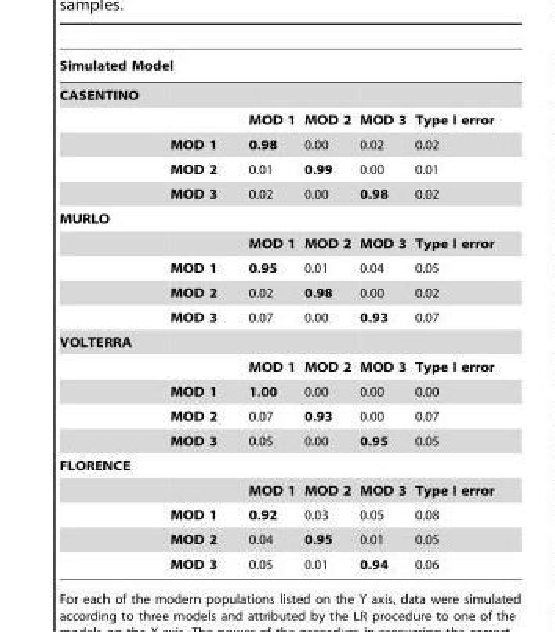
<table><thead><tr><td colspan="6">Simulated Model</td></tr><tr><td>CASENTINO</td><td></td><td></td><td></td><td></td><td></td></tr></thead><tbody><tr><td></td><td></td><td>MOD 1</td><td>MOD 2</td><td>MOD 3</td><td>Type I error</td></tr><tr><td></td><td>MOD 1</td><td>0.98</td><td>0.00</td><td>0.02</td><td>0.02</td></tr><tr><td></td><td>MOD 2</td><td>0.01</td><td>0.99</td><td>0.00</td><td>0.01</td></tr><tr><td></td><td>MOD 3</td><td>0.02</td><td>0.00</td><td>0.98</td><td>0.02</td></tr><tr><td colspan="6">MURLO</td></tr><tr><td></td><td></td><td>MOD 1</td><td>MOD 2</td><td>MOD 3</td><td>Type I error</td></tr><tr><td></td><td>MOD 1</td><td>0.95</td><td>0.01</td><td>0.04</td><td>0.05</td></tr><tr><td></td><td>MOD 2</td><td>0.02</td><td>0.98</td><td>0.00</td><td>0.02</td></tr><tr><td></td><td>MOD 3</td><td>0.07</td><td>0.00</td><td>0.93</td><td>0.07</td></tr><tr><td colspan="6">VOLTERRA</td></tr><tr><td></td><td></td><td>MOD 1</td><td>MOD 2</td><td>MOD 3</td><td>Type I error</td></tr><tr><td></td><td>MOD 1</td><td>1.00</td><td>0.00</td><td>0.00</td><td>0.00</td></tr><tr><td></td><td>MOD 2</td><td>0.07</td><td>0.93</td><td>0.00</td><td>0.07</td></tr><tr><td></td><td>MOD 3</td><td>0.05</td><td>0.00</td><td>0.95</td><td>0.05</td></tr><tr><td colspan="6">FLORENCE</td></tr><tr><td></td><td></td><td>MOD 1</td><td>MOD 2</td><td>MOD 3</td><td>Type I error</td></tr><tr><td></td><td>MOD 1</td><td>0.92</td><td>0.03</td><td>0.05</td><td>0.08</td></tr><tr><td></td><td>MOD 2</td><td>0.04</td><td>0.95</td><td>0.01</td><td>0.05</td></tr><tr><td></td><td>MOD 3</td><td>0.05</td><td>0.01</td><td>0.94</td><td>0.06</td></tr></tbody></table>